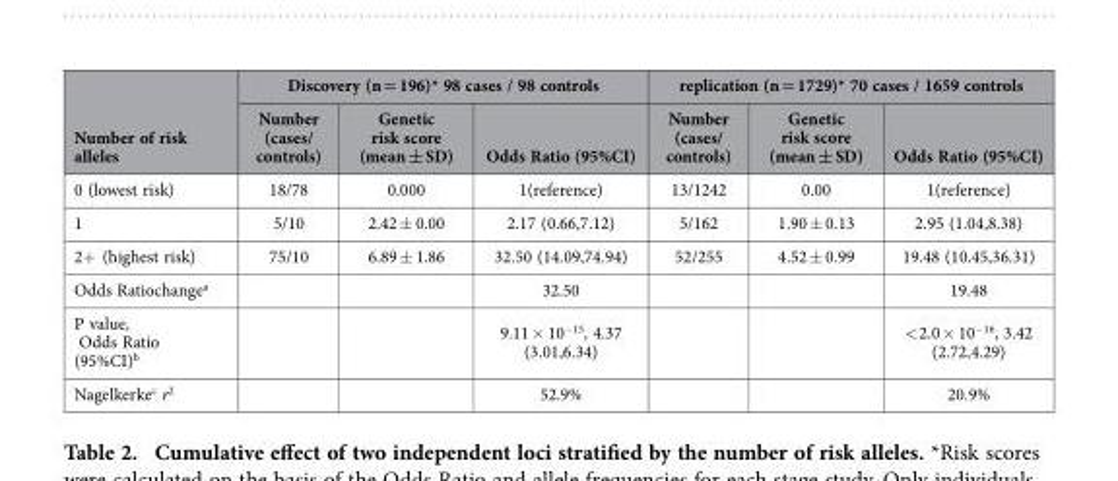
<table><thead><tr><td rowspan="2">Number of risk alleles</td><td colspan="3">Discovery (n = 196)* 98 cases / 98 controls</td><td colspan="3">replication (n = 1729)* 70 cases / 1659 controls</td></tr><tr><td>Number (cases/ controls)</td><td>Genetic risk score (mean ± SD)</td><td>Odds Ratio (95%CI)</td><td>Number (cases/ controls)</td><td>Genetic risk score (mean ± SD)</td><td>Odds Ratio (95%CI)</td></tr></thead><tbody><tr><td>0 (lowest risk)</td><td>18/78</td><td>0.000</td><td>1(reference)</td><td>13/1242</td><td>0.00</td><td>1(reference)</td></tr><tr><td>1</td><td>5/10</td><td>2.42 ± 0.00</td><td>2.17 (0.66,7.12)</td><td>5/162</td><td>1.90 ± 0.13</td><td>2.95 (1.04,8.38)</td></tr><tr><td>2+ (highest risk)</td><td>75/10</td><td>6.89 ± 1.86</td><td>32.50 (14.09,74.94)</td><td>52/255</td><td>4.52 ± 0.99</td><td>19.48 (10.45,36.31)</td></tr><tr><td>Odds Ratiochange<sup>a</sup></td><td></td><td></td><td>32.50</td><td></td><td></td><td>19.48</td></tr><tr><td>P value, Odds Ratio (95%CI)<sup>b</sup></td><td></td><td></td><td>9.11 × 10<sup>−15</sup>, 4.37 (3.01,6.34)</td><td></td><td></td><td>&lt; 2.0 × 10<sup>−16</sup>, 3.42 (2.72,4.29)</td></tr><tr><td>Nagelkerke<sup>c</sup> r<sup>2</sup></td><td></td><td></td><td>52.9%</td><td></td><td></td><td>20.9%</td></tr></tbody></table>